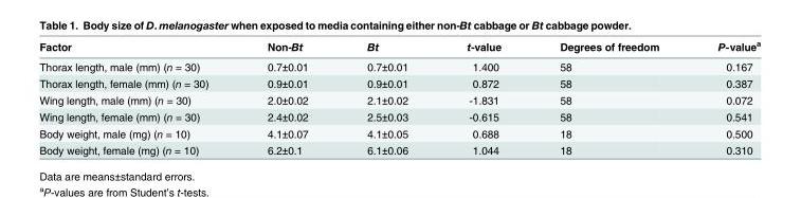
<table><thead><tr><td>Factor</td><td>Non-Bt</td><td>Bt</td><td>t-value</td><td>Degrees of freedom</td><td>P-value<sup>a</sup></td></tr></thead><tbody><tr><td>Thorax length, male (mm) (n = 30)</td><td>0.7±0.01</td><td>0.7±0.01</td><td>1.400</td><td>58</td><td>0.167</td></tr><tr><td>Thorax length, female (mm) (n = 30)</td><td>0.9±0.01</td><td>0.9±0.01</td><td>0.872</td><td>58</td><td>0.387</td></tr><tr><td>Wing length, male (mm) (n = 30)</td><td>2.0±0.02</td><td>2.1±0.02</td><td>-1.831</td><td>58</td><td>0.072</td></tr><tr><td>Wing length, female (mm) (n = 30)</td><td>2.4±0.02</td><td>2.5±0.03</td><td>-0.615</td><td>58</td><td>0.541</td></tr><tr><td>Body weight, male (mg) (n = 10)</td><td>4.1±0.07</td><td>4.1±0.05</td><td>0.688</td><td>18</td><td>0.500</td></tr><tr><td>Body weight, female (mg) (n = 10)</td><td>6.2±0.1</td><td>6.1±0.06</td><td>1.044</td><td>18</td><td>0.310</td></tr></tbody></table>